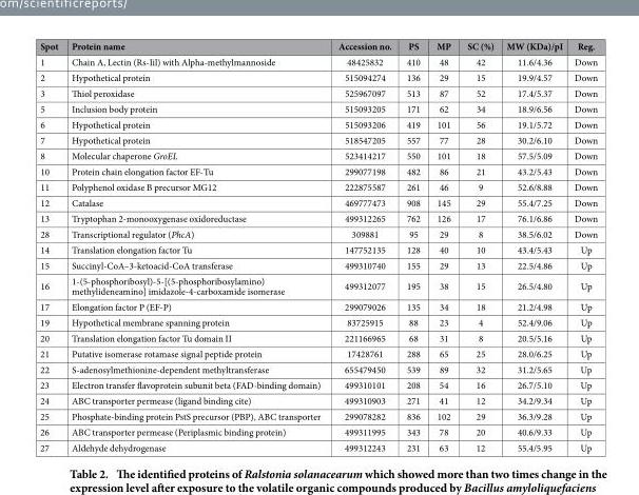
<table><thead><tr><td>Spot</td><td>Protein name</td><td>Accession no.</td><td>PS</td><td>MP</td><td>SC (%)</td><td>MW (KDa)/pI</td><td>Reg.</td></tr></thead><tbody><tr><td>1</td><td>Chain A, Lectin (Rs-Iil) with Alpha-methylmannoside</td><td>48425832</td><td>410</td><td>48</td><td>42</td><td>11.6/4.36</td><td>Down</td></tr><tr><td>2</td><td>Hypothetical protein</td><td>515094274</td><td>136</td><td>29</td><td>15</td><td>19.9/4.57</td><td>Down</td></tr><tr><td>3</td><td>Thiol peroxidase</td><td>525967097</td><td>513</td><td>87</td><td>52</td><td>17.4/5.37</td><td>Down</td></tr><tr><td>5</td><td>Inclusion body protein</td><td>515093205</td><td>171</td><td>62</td><td>34</td><td>18.9/6.56</td><td>Down</td></tr><tr><td>6</td><td>Hypothetical protein</td><td>515093206</td><td>419</td><td>101</td><td>56</td><td>19.1/5.72</td><td>Down</td></tr><tr><td>7</td><td>Hypothetical protein</td><td>518547205</td><td>557</td><td>77</td><td>28</td><td>30.2/6.10</td><td>Down</td></tr><tr><td>8</td><td>Molecular chaperone GroEL</td><td>523414217</td><td>550</td><td>101</td><td>18</td><td>57.5/5.09</td><td>Down</td></tr><tr><td>10</td><td>Protein chain elongation factor EF-Tu</td><td>299077198</td><td>482</td><td>86</td><td>21</td><td>43.2/5.43</td><td>Down</td></tr><tr><td>11</td><td>Polyphenol oxidase B precursor MG12</td><td>222875587</td><td>261</td><td>46</td><td>9</td><td>52.6/8.88</td><td>Down</td></tr><tr><td>12</td><td>Catalase</td><td>469777473</td><td>908</td><td>145</td><td>29</td><td>55.4/7.25</td><td>Down</td></tr><tr><td>13</td><td>Tryptophan 2-monooxygenase oxidoreductase</td><td>499312265</td><td>762</td><td>126</td><td>17</td><td>76.1/6.86</td><td>Down</td></tr><tr><td>28</td><td>Transcriptional regulator (PhcA)</td><td>309881</td><td>95</td><td>29</td><td>8</td><td>38.5/6.02</td><td>Down</td></tr><tr><td>14</td><td>Translation elongation factor Tu</td><td>147752135</td><td>128</td><td>40</td><td>10</td><td>43.4/5.43</td><td>Up</td></tr><tr><td>15</td><td>Succinyl-CoA–3-ketoacid-CoA transferase</td><td>499310740</td><td>155</td><td>29</td><td>13</td><td>22.5/4.86</td><td>Up</td></tr><tr><td>16</td><td>1-(5-phosphoribosyl)-5-[(5-phosphoribosylamino) methylideneamino] imidazole-4-carboxamide isomerase</td><td>499312077</td><td>195</td><td>38</td><td>15</td><td>26.5/4.80</td><td>Up</td></tr><tr><td>17</td><td>Elongation factor P (EF-P)</td><td>299079026</td><td>135</td><td>34</td><td>18</td><td>21.2/4.98</td><td>Up</td></tr><tr><td>19</td><td>Hypothetical membrane spanning protein</td><td>83725915</td><td>88</td><td>23</td><td>4</td><td>52.4/9.06</td><td>Up</td></tr><tr><td>20</td><td>Translation elongation factor Tu domain II</td><td>221166965</td><td>68</td><td>31</td><td>8</td><td>20.5/5.16</td><td>Up</td></tr><tr><td>21</td><td>Putative isomerase rotamase signal peptide protein</td><td>17428761</td><td>288</td><td>65</td><td>25</td><td>28.0/6.25</td><td>Up</td></tr><tr><td>22</td><td>S-adenosylmethionine-dependent methyltransferase</td><td>655479450</td><td>539</td><td>89</td><td>32</td><td>31.2/5.65</td><td>Up</td></tr><tr><td>23</td><td>Electron transfer flavoprotein subunit beta (FAD-binding domain)</td><td>499310101</td><td>208</td><td>54</td><td>16</td><td>26.7/5.10</td><td>Up</td></tr><tr><td>24</td><td>ABC transporter permease (ligand binding cite)</td><td>499310903</td><td>271</td><td>41</td><td>12</td><td>34.2/9.34</td><td>Up</td></tr><tr><td>25</td><td>Phosphate-binding protein PstS precursor (PBP), ABC transporter</td><td>299078282</td><td>836</td><td>102</td><td>29</td><td>36.3/9.28</td><td>Up</td></tr><tr><td>26</td><td>ABC transporter permease (Periplasmic binding protein)</td><td>499311995</td><td>343</td><td>78</td><td>20</td><td>40.6/9.33</td><td>Up</td></tr><tr><td>27</td><td>Aldehyde dehydrogenase</td><td>499312243</td><td>231</td><td>63</td><td>12</td><td>55.4/5.95</td><td>Up</td></tr></tbody></table>